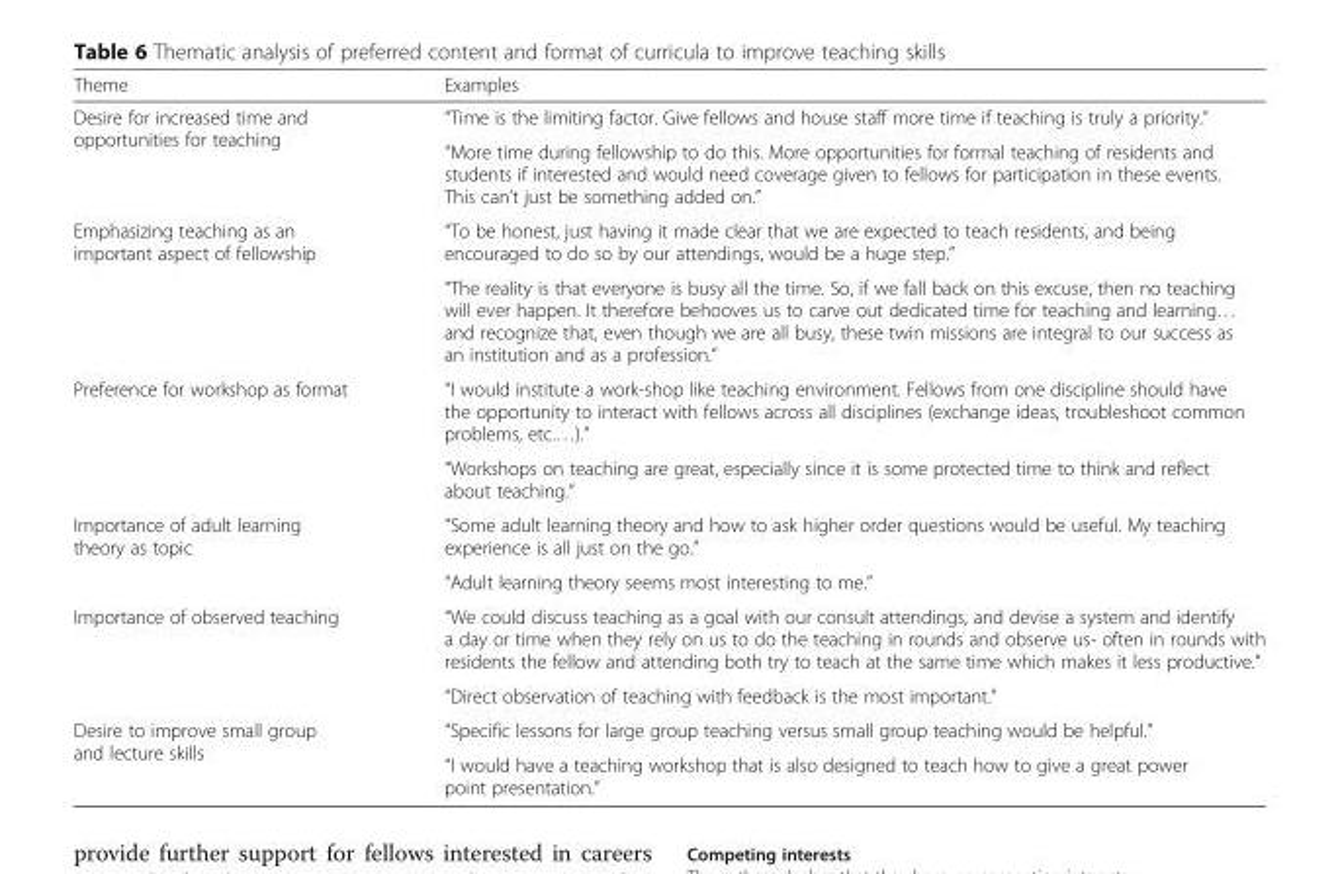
<table><thead><tr><td>Theme</td><td>Examples</td></tr></thead><tbody><tr><td rowspan="2">Desire for increased time and opportunities for teaching</td><td>“Time is the limiting factor. Give fellows and house staff more time if teaching is truly a priority.”</td></tr><tr><td>“More time during fellowship to do this. More opportunities for formal teaching of residents and students if interested and would need coverage given to fellows for participation in these events. This can’t just be something added on.”</td></tr><tr><td rowspan="2">Emphasizing teaching as an important aspect of fellowship</td><td>“To be honest, just having it made clear that we are expected to teach residents, and being encouraged to do so by our attendings, would be a huge step.”</td></tr><tr><td>“The reality is that everyone is busy all the time. So, if we fall back on this excuse, then no teaching will ever happen. It therefore behooves us to carve out dedicated time for teaching and learning… and recognize that, even though we are all busy, these twin missions are integral to our success as an institution and as a profession.”</td></tr><tr><td rowspan="2">Preference for workshop as format</td><td>“I would institute a work-shop like teaching environment. Fellows from one discipline should have the opportunity to interact with fellows across all disciplines (exchange ideas, troubleshoot common problems, etc.…).”</td></tr><tr><td>“Workshops on teaching are great, especially since it is some protected time to think and reflect about teaching.”</td></tr><tr><td rowspan="2">Importance of adult learning theory as topic</td><td>“Some adult learning theory and how to ask higher order questions would be useful. My teaching experience is all just on the go.”</td></tr><tr><td>“Adult learning theory seems most interesting to me.”</td></tr><tr><td rowspan="2">Importance of observed teaching</td><td>“We could discuss teaching as a goal with our consult attendings, and devise a system and identify a day or time when they rely on us to do the teaching in rounds and observe us- often in rounds with residents the fellow and attending both try to teach at the same time which makes it less productive.”</td></tr><tr><td>“Direct observation of teaching with feedback is the most important.”</td></tr><tr><td rowspan="2">Desire to improve small group and lecture skills</td><td>“Specific lessons for large group teaching versus small group teaching would be helpful.”</td></tr><tr><td>“I would have a teaching workshop that is also designed to teach how to give a great power point presentation.”</td></tr></tbody></table>